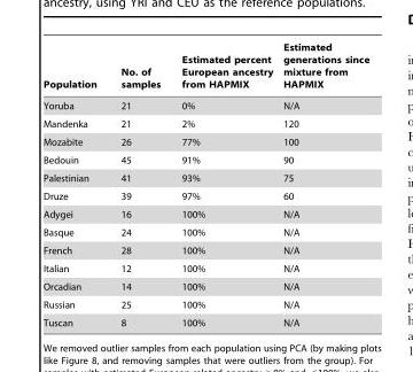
<table><thead><tr><td>Population</td><td>No. of samples</td><td>Estimated percent European ancestry from HAPMIX</td><td>Estimated generations since mixture from HAPMIX</td></tr></thead><tbody><tr><td>Yoruba</td><td>21</td><td>0%</td><td>N/A</td></tr><tr><td>Mandenka</td><td>21</td><td>2%</td><td>120</td></tr><tr><td>Mozabite</td><td>26</td><td>77%</td><td>100</td></tr><tr><td>Bedouin</td><td>45</td><td>91%</td><td>90</td></tr><tr><td>Palestinian</td><td>41</td><td>93%</td><td>75</td></tr><tr><td>Druze</td><td>39</td><td>97%</td><td>60</td></tr><tr><td>Adygei</td><td>16</td><td>100%</td><td>N/A</td></tr><tr><td>Basque</td><td>24</td><td>100%</td><td>N/A</td></tr><tr><td>French</td><td>28</td><td>100%</td><td>N/A</td></tr><tr><td>Italian</td><td>12</td><td>100%</td><td>N/A</td></tr><tr><td>Orcadian</td><td>14</td><td>100%</td><td>N/A</td></tr><tr><td>Russian</td><td>25</td><td>100%</td><td>N/A</td></tr><tr><td>Tuscan</td><td>8</td><td>100%</td><td>N/A</td></tr></tbody></table>